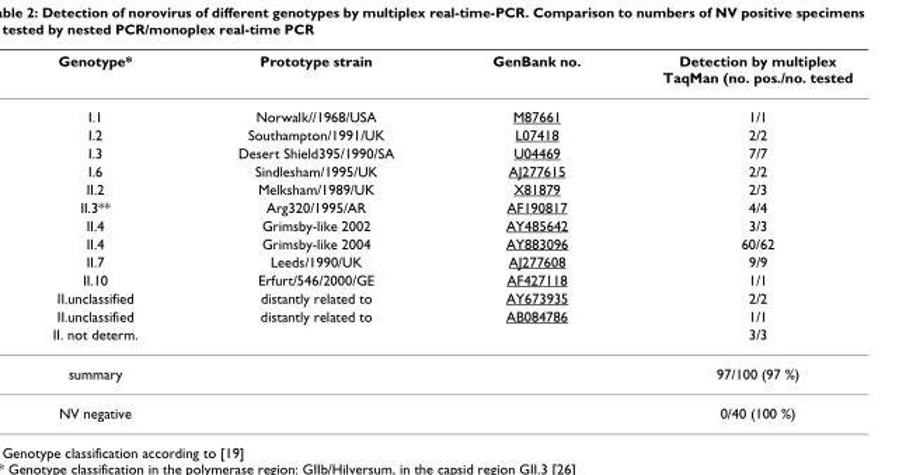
<table><thead><tr><td>Genotype*</td><td>Prototype strain</td><td>GenBank no.</td><td>Detection by multiplex TaqMan (no. pos./no. tested</td></tr></thead><tbody><tr><td>I.1</td><td>Norwalk//1968/USA</td><td>M87661</td><td>1/1</td></tr><tr><td>I.2</td><td>Southampton/1991/UK</td><td>L07418</td><td>2/2</td></tr><tr><td>I.3</td><td>Desert Shield395/1990/SA</td><td>U04469</td><td>7/7</td></tr><tr><td>I.6</td><td>Sindlesham/1995/UK</td><td>AJ277615</td><td>2/2</td></tr><tr><td>II.2</td><td>Melksham/1989/UK</td><td>X81879</td><td>2/3</td></tr><tr><td>II.3**</td><td>Arg320/1995/AR</td><td>AF190817</td><td>4/4</td></tr><tr><td>II.4</td><td>Grimsby-like 2002</td><td>AY485642</td><td>3/3</td></tr><tr><td>II.4</td><td>Grimsby-like 2004</td><td>AY883096</td><td>60/62</td></tr><tr><td>II.7</td><td>Leeds/1990/UK</td><td>AJ277608</td><td>9/9</td></tr><tr><td>II.10</td><td>Erfurt/546/2000/GE</td><td>AF427118</td><td>1/1</td></tr><tr><td>II.unclassified</td><td>distantly related to</td><td>AY673935</td><td>2/2</td></tr><tr><td>II.unclassified</td><td>distantly related to</td><td>AB084786</td><td>1/1</td></tr><tr><td>II. not determ.</td><td></td><td></td><td>3/3</td></tr><tr><td>summary</td><td></td><td></td><td>97/100 (97 %)</td></tr><tr><td>NV negative</td><td></td><td></td><td>0/40 (100 %)</td></tr></tbody></table>